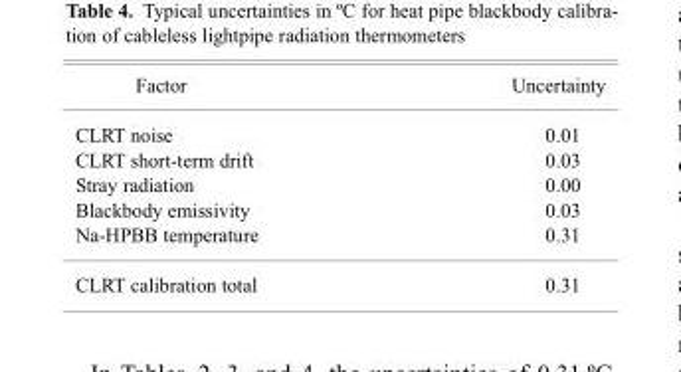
<table><thead><tr><td>Factor</td><td>Uncertainty</td></tr></thead><tbody><tr><td>CLRT noise</td><td>0.01</td></tr><tr><td>CLRT short-term drift</td><td>0.03</td></tr><tr><td>Stray radiation</td><td>0.00</td></tr><tr><td>Blackbody emissivity</td><td>0.03</td></tr><tr><td>Na-HPBB temperature</td><td>0.31</td></tr><tr><td>CLRT calibration total</td><td>0.31</td></tr></tbody></table>